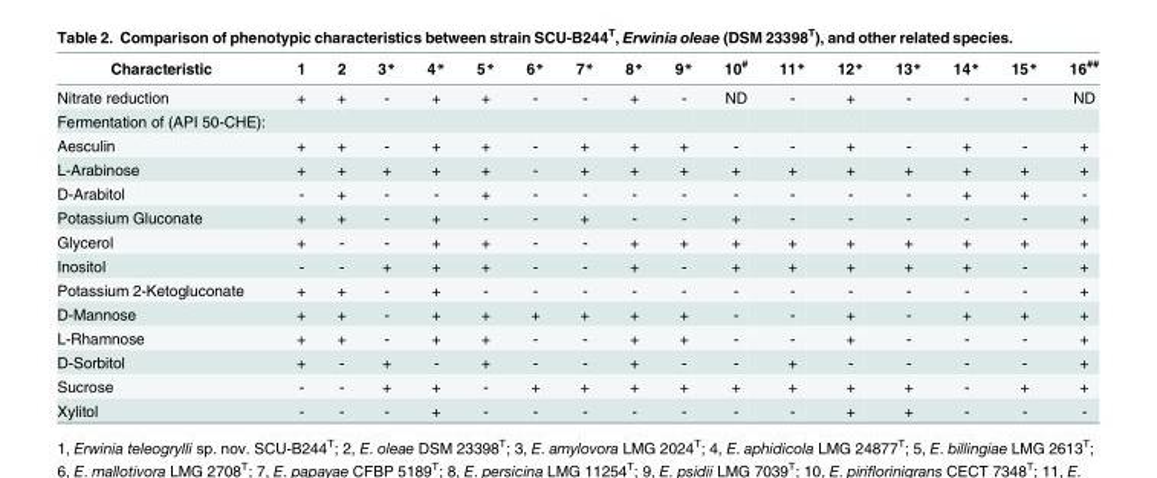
<table><thead><tr><td>Characteristic</td><td>1</td><td>2</td><td>3*</td><td>4*</td><td>5*</td><td>6*</td><td>7*</td><td>8*</td><td>9*</td><td>10<sup>#</sup></td><td>11*</td><td>12*</td><td>13*</td><td>14*</td><td>15*</td><td>16<sup>##</sup></td></tr></thead><tbody><tr><td>Nitrate reduction</td><td>+</td><td>+</td><td>-</td><td>+</td><td>+</td><td>-</td><td>-</td><td>+</td><td>-</td><td>ND</td><td>-</td><td>+</td><td>-</td><td>-</td><td>-</td><td>ND</td></tr><tr><td colspan="17">Fermentation of (API 50-CHE):</td></tr><tr><td>Aesculin</td><td>+</td><td>+</td><td>-</td><td>+</td><td>+</td><td>-</td><td>+</td><td>+</td><td>+</td><td>-</td><td>-</td><td>+</td><td>-</td><td>+</td><td>-</td><td>+</td></tr><tr><td>L-Arabinose</td><td>+</td><td>+</td><td>+</td><td>+</td><td>+</td><td>-</td><td>+</td><td>+</td><td>+</td><td>+</td><td>+</td><td>+</td><td>+</td><td>+</td><td>+</td><td>+</td></tr><tr><td>D-Arabitol</td><td>-</td><td>+</td><td>-</td><td>-</td><td>+</td><td>-</td><td>-</td><td>-</td><td>-</td><td>-</td><td>-</td><td>-</td><td>-</td><td>+</td><td>+</td><td>-</td></tr><tr><td>Potassium Gluconate</td><td>+</td><td>+</td><td>-</td><td>+</td><td>-</td><td>-</td><td>+</td><td>-</td><td>-</td><td>+</td><td>-</td><td>-</td><td>-</td><td>-</td><td>-</td><td>+</td></tr><tr><td>Glycerol</td><td>+</td><td>-</td><td>-</td><td>+</td><td>+</td><td>-</td><td>-</td><td>+</td><td>+</td><td>+</td><td>+</td><td>+</td><td>+</td><td>+</td><td>+</td><td>+</td></tr><tr><td>Inositol</td><td>-</td><td>-</td><td>+</td><td>+</td><td>+</td><td>-</td><td>-</td><td>+</td><td>-</td><td>+</td><td>+</td><td>+</td><td>+</td><td>+</td><td>-</td><td>+</td></tr><tr><td>Potassium 2-Ketogluconate</td><td>+</td><td>+</td><td>-</td><td>+</td><td>-</td><td>-</td><td>-</td><td>-</td><td>-</td><td>-</td><td>-</td><td>-</td><td>-</td><td>-</td><td>-</td><td>+</td></tr><tr><td>D-Mannose</td><td>+</td><td>+</td><td>-</td><td>+</td><td>+</td><td>+</td><td>+</td><td>+</td><td>+</td><td>-</td><td>-</td><td>+</td><td>-</td><td>+</td><td>+</td><td>+</td></tr><tr><td>L-Rhamnose</td><td>+</td><td>+</td><td>-</td><td>+</td><td>+</td><td>-</td><td>-</td><td>+</td><td>+</td><td>-</td><td>-</td><td>+</td><td>-</td><td>-</td><td>-</td><td>+</td></tr><tr><td>D-Sorbitol</td><td>+</td><td>-</td><td>+</td><td>-</td><td>+</td><td>-</td><td>-</td><td>+</td><td>-</td><td>-</td><td>+</td><td>-</td><td>-</td><td>-</td><td>-</td><td>+</td></tr><tr><td>Sucrose</td><td>-</td><td>-</td><td>+</td><td>+</td><td>-</td><td>+</td><td>+</td><td>+</td><td>+</td><td>+</td><td>+</td><td>+</td><td>+</td><td>-</td><td>+</td><td>+</td></tr><tr><td>Xylitol</td><td>-</td><td>-</td><td>-</td><td>+</td><td>-</td><td>-</td><td>-</td><td>-</td><td>-</td><td>-</td><td>-</td><td>+</td><td>+</td><td>-</td><td>-</td><td>-</td></tr></tbody></table>